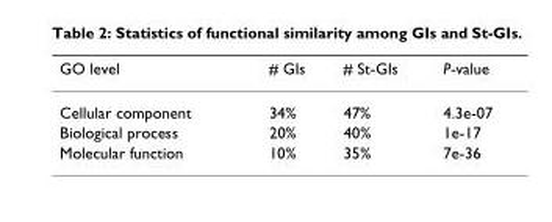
<table><thead><tr><td>GO level</td><td># GIs</td><td># St-GIs</td><td>P-value</td></tr></thead><tbody><tr><td>Cellular component</td><td>34%</td><td>47%</td><td>4.3e-07</td></tr><tr><td>Biological process</td><td>20%</td><td>40%</td><td>1e-17</td></tr><tr><td>Molecular function</td><td>10%</td><td>35%</td><td>7e-36</td></tr></tbody></table>